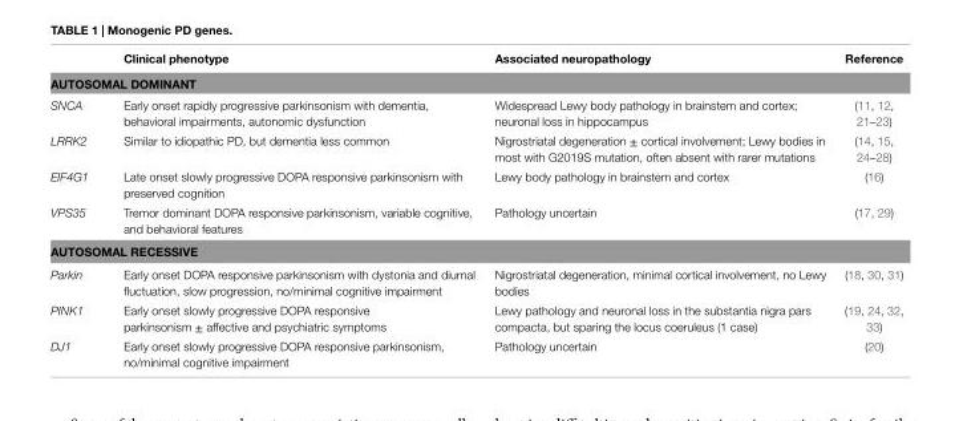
<table><thead><tr><td></td><td>Clinical phenotype</td><td>Associated neuropathology</td><td>Reference</td></tr></thead><tbody><tr><td colspan="4">AUTOSOMAL DOMiNANT</td></tr><tr><td>SNCA</td><td>Early onset rapidly progressive parkinsonism with dementia, behavioral impairments, autonomic dysfunction</td><td>Widespread Lewy body pathology in brainstem and cortex; neuronal loss in hippocampus</td><td>(11, 12, 21–23)</td></tr><tr><td>LRRK2</td><td>Similar to idiopathic PD, but dementia less common</td><td>Nigrostriatal degeneration ± cortical involvement; Lewy bodies in most with G2019S mutation, often absent with rarer mutations</td><td>(14, 15, 24–28)</td></tr><tr><td>EIF4G1</td><td>Late onset slowly progressive DOPA responsive parkinsonism with preserved cognition</td><td>Lewy body pathology in brainstem and cortex</td><td>(16)</td></tr><tr><td>VPS35</td><td>Tremor dominant DOPA responsive parkinsonism, variable cognitive, and behavioral features</td><td>Pathology uncertain</td><td>(17, 29)</td></tr><tr><td colspan="4">AUTOSOMAL ReCeSSive</td></tr><tr><td>Parkin</td><td>Early onset DOPA responsive parkinsonism with dystonia and diurnal fluctuation, slow progression, no/minimal cognitive impairment</td><td>Nigrostriatal degeneration, minimal cortical involvement, no Lewy bodies</td><td>(18, 30, 31)</td></tr><tr><td>PINK1</td><td>Early onset slowly progressive DOPA responsive parkinsonism ± affective and psychiatric symptoms</td><td>Lewy pathology and neuronal loss in the substantia nigra pars compacta, but sparing the locus coeruleus (1 case)</td><td>(19, 24, 32, 33)</td></tr><tr><td>DJ1</td><td>Early onset slowly progressive DOPA responsive parkinsonism, no/minimal cognitive impairment</td><td>Pathology uncertain</td><td>(20)</td></tr></tbody></table>